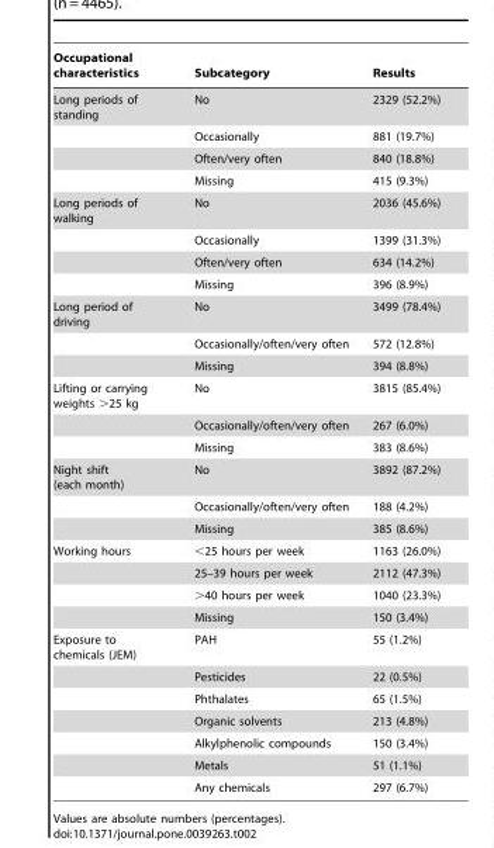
<table><thead><tr><td>Occupational characteristics</td><td>Subcategory</td><td>Results</td></tr></thead><tbody><tr><td rowspan="4">Long periods of standing</td><td>No</td><td>2329 (52.2%)</td></tr><tr><td>Occasionally</td><td>881 (19.7%)</td></tr><tr><td>Often/very often</td><td>840 (18.8%)</td></tr><tr><td>Missing</td><td>415 (9.3%)</td></tr><tr><td rowspan="4">Long periods of walking</td><td>No</td><td>2036 (45.6%)</td></tr><tr><td>Occasionally</td><td>1399 (31.3%)</td></tr><tr><td>Often/very often</td><td>634 (14.2%)</td></tr><tr><td>Missing</td><td>396 (8.9%)</td></tr><tr><td rowspan="3">Long period of driving</td><td>No</td><td>3499 (78.4%)</td></tr><tr><td>Occasionally/often/very often</td><td>572 (12.8%)</td></tr><tr><td>Missing</td><td>394 (8.8%)</td></tr><tr><td rowspan="3">Lifting or carrying weights &gt;25 kg</td><td>No</td><td>3815 (85.4%)</td></tr><tr><td>Occasionally/often/very often</td><td>267 (6.0%)</td></tr><tr><td>Missing</td><td>383 (8.6%)</td></tr><tr><td rowspan="3">Night shift (each month)</td><td>No</td><td>3892 (87.2%)</td></tr><tr><td>Occasionally/often/very often</td><td>188 (4.2%)</td></tr><tr><td>Missing</td><td>385 (8.6%)</td></tr><tr><td rowspan="4">Working hours</td><td>&lt;25 hours per week</td><td>1163 (26.0%)</td></tr><tr><td>25–39 hours per week</td><td>2112 (47.3%)</td></tr><tr><td>&gt;40 hours per week</td><td>1040 (23.3%)</td></tr><tr><td>Missing</td><td>150 (3.4%)</td></tr><tr><td rowspan="7">Exposure to chemicals (JEM)</td><td>PAH</td><td>55 (1.2%)</td></tr><tr><td>Pesticides</td><td>22 (0.5%)</td></tr><tr><td>Phthalates</td><td>65 (1.5%)</td></tr><tr><td>Organic solvents</td><td>213 (4.8%)</td></tr><tr><td>Alkylphenolic compounds</td><td>150 (3.4%)</td></tr><tr><td>Metals</td><td>51 (1.1%)</td></tr><tr><td>Any chemicals</td><td>297 (6.7%)</td></tr></tbody></table>